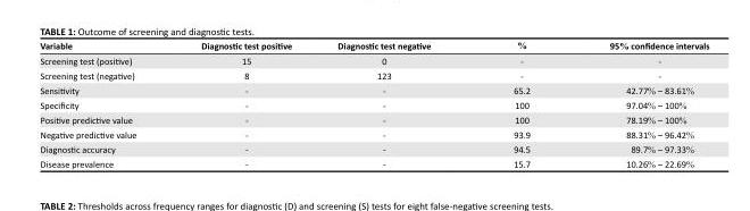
<table><thead><tr><td>Variable</td><td>Diagnostic test positive</td><td>Diagnostic test negative</td><td>%</td><td>95% confidence intervals</td></tr></thead><tbody><tr><td>Screening test (positive)</td><td>15</td><td>0</td><td>-</td><td>-</td></tr><tr><td>Screening test (negative)</td><td>8</td><td>123</td><td>-</td><td>-</td></tr><tr><td>Sensitivity</td><td>-</td><td>-</td><td>65.2</td><td>42.77% – 83.61%</td></tr><tr><td>Specificity</td><td>-</td><td>-</td><td>100</td><td>97.04% – 100%</td></tr><tr><td>Positive predictive value</td><td>-</td><td>-</td><td>100</td><td>78.19% – 100%</td></tr><tr><td>Negative predictive value</td><td>-</td><td>-</td><td>93.9</td><td>88.31% – 96.42%</td></tr><tr><td>Diagnostic accuracy</td><td>-</td><td>-</td><td>94.5</td><td>89.7% – 97.33%</td></tr><tr><td>Disease prevalence</td><td>-</td><td>-</td><td>15.7</td><td>10.26% – 22.69%</td></tr></tbody></table>